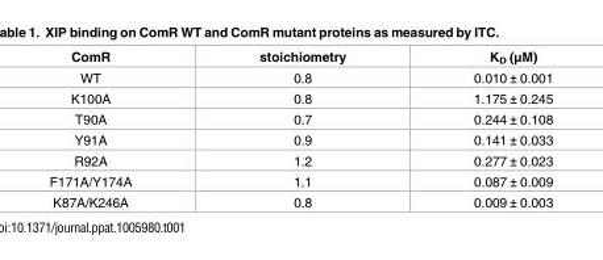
<table><thead><tr><td>ComR</td><td>stoichiometry</td><td>K<sub>D</sub> (μM)</td></tr></thead><tbody><tr><td>WT</td><td>0.8</td><td>0.010 ± 0.001</td></tr><tr><td>K100A</td><td>0.8</td><td>1.175 ± 0.245</td></tr><tr><td>T90A</td><td>0.7</td><td>0.244 ± 0.108</td></tr><tr><td>Y91A</td><td>0.9</td><td>0.141 ± 0.033</td></tr><tr><td>R92A</td><td>1.2</td><td>0.277 ± 0.023</td></tr><tr><td>F171A/Y174A</td><td>1.1</td><td>0.087 ± 0.009</td></tr><tr><td>K87A/K246A</td><td>0.8</td><td>0.009 ± 0.003</td></tr></tbody></table>